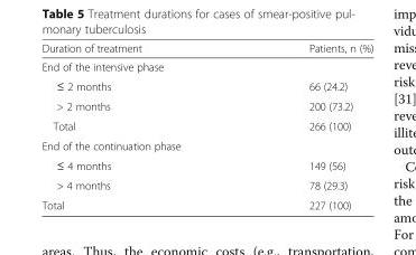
<table><thead><tr><td>Duration of treatment</td><td>Patients, n (%)</td></tr></thead><tbody><tr><td colspan="2">End of the intensive phase</td></tr><tr><td>≤ 2 months</td><td>66 (24.2)</td></tr><tr><td>&gt; 2 months</td><td>200 (73.2)</td></tr><tr><td>Total</td><td>266 (100)</td></tr><tr><td colspan="2">End of the continuation phase</td></tr><tr><td>≤ 4 months</td><td>149 (56)</td></tr><tr><td>&gt; 4 months</td><td>78 (29.3)</td></tr><tr><td>Total</td><td>227 (100)</td></tr></tbody></table>